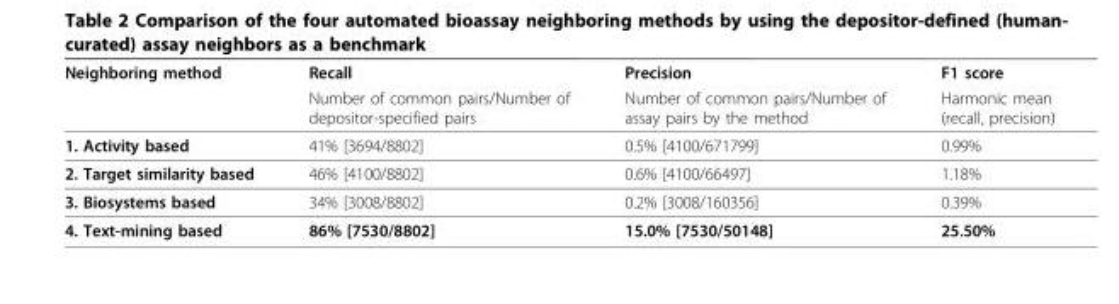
<table><thead><tr><td rowspan="2">Neighboring method</td><td rowspan="2">Recall Number of common pairs/Number of depositor-specified pairs</td><td rowspan="2">Precision Number of common pairs/Number of assay pairs by the method</td><td rowspan="2">F1 score Harmonic mean (recall, precision)</td></tr><tr></tr></thead><tbody><tr><td>1. Activity based</td><td>41% [3694/8802]</td><td>0.5% [4100/671799]</td><td>0.99%</td></tr><tr><td>2. Target similarity based</td><td>46% [4100/8802]</td><td>0.6% [4100/66497]</td><td>1.18%</td></tr><tr><td>3. Biosystems based</td><td>34% [3008/8802]</td><td>0.2% [3008/160356]</td><td>0.39%</td></tr><tr><td>4. Text-mining based</td><td>86% [7530/8802]</td><td>15.0% [7530/50148]</td><td>25.50%</td></tr></tbody></table>